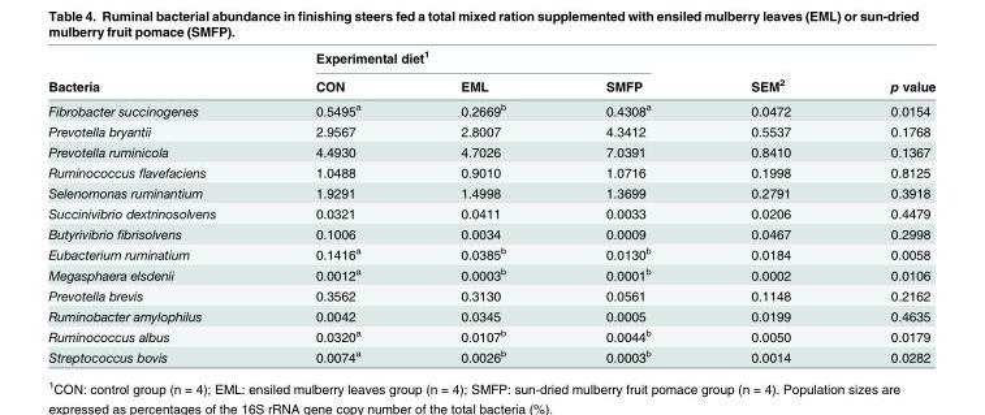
<table><thead><tr><td rowspan="2">Bacteria</td><td colspan="3">Experimental diet<sup>1</sup></td><td rowspan="2">SEM<sup>2</sup></td><td rowspan="2">p value</td></tr><tr><td>CON</td><td>EML</td><td>SMFP</td></tr></thead><tbody><tr><td>Fibrobacter succinogenes</td><td>0.5495<sup>a</sup></td><td>0.2669<sup>b</sup></td><td>0.4308<sup>a</sup></td><td>0.0472</td><td>0.0154</td></tr><tr><td>Prevotella bryantii</td><td>2.9567</td><td>2.8007</td><td>4.3412</td><td>0.5537</td><td>0.1768</td></tr><tr><td>Prevotella ruminicola</td><td>4.4930</td><td>4.7026</td><td>7.0391</td><td>0.8410</td><td>0.1367</td></tr><tr><td>Ruminococcus flavefaciens</td><td>1.0488</td><td>0.9010</td><td>1.0716</td><td>0.1998</td><td>0.8125</td></tr><tr><td>Selenomonas ruminantium</td><td>1.9291</td><td>1.4998</td><td>1.3699</td><td>0.2791</td><td>0.3918</td></tr><tr><td>Succinivibrio dextrinosolvens</td><td>0.0321</td><td>0.0411</td><td>0.0033</td><td>0.0206</td><td>0.4479</td></tr><tr><td>Butyrivibrio fibrisolvens</td><td>0.1006</td><td>0.0034</td><td>0.0009</td><td>0.0467</td><td>0.2998</td></tr><tr><td>Eubacterium ruminatium</td><td>0.1416<sup>a</sup></td><td>0.0385<sup>b</sup></td><td>0.0130<sup>b</sup></td><td>0.0184</td><td>0.0058</td></tr><tr><td>Megasphaera elsdenii</td><td>0.0012<sup>a</sup></td><td>0.0003<sup>b</sup></td><td>0.0001<sup>b</sup></td><td>0.0002</td><td>0.0106</td></tr><tr><td>Prevotella brevis</td><td>0.3562</td><td>0.3130</td><td>0.0561</td><td>0.1148</td><td>0.2162</td></tr><tr><td>Ruminobacter amylophilus</td><td>0.0042</td><td>0.0345</td><td>0.0005</td><td>0.0199</td><td>0.4635</td></tr><tr><td>Ruminococcus albus</td><td>0.0320<sup>a</sup></td><td>0.0107<sup>b</sup></td><td>0.0044<sup>b</sup></td><td>0.0050</td><td>0.0179</td></tr><tr><td>Streptococcus bovis</td><td>0.0074<sup>a</sup></td><td>0.0026<sup>b</sup></td><td>0.0003<sup>b</sup></td><td>0.0014</td><td>0.0282</td></tr></tbody></table>